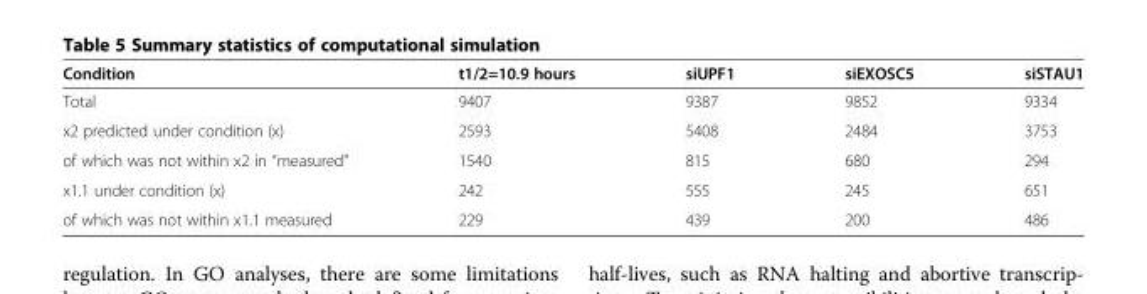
<table><thead><tr><td>Condition</td><td>t1/2=10.9 hours</td><td>siUPF1</td><td>siEXOSC5</td><td>siSTAU1</td></tr></thead><tbody><tr><td>Total</td><td>9407</td><td>9387</td><td>9852</td><td>9334</td></tr><tr><td>x2 predicted under condition (x)</td><td>2593</td><td>5408</td><td>2484</td><td>3753</td></tr><tr><td>of which was not within x2 in “measured”</td><td>1540</td><td>815</td><td>680</td><td>294</td></tr><tr><td>x1.1 under condition (x)</td><td>242</td><td>555</td><td>245</td><td>651</td></tr><tr><td>of which was not within x1.1 measured</td><td>229</td><td>439</td><td>200</td><td>486</td></tr></tbody></table>